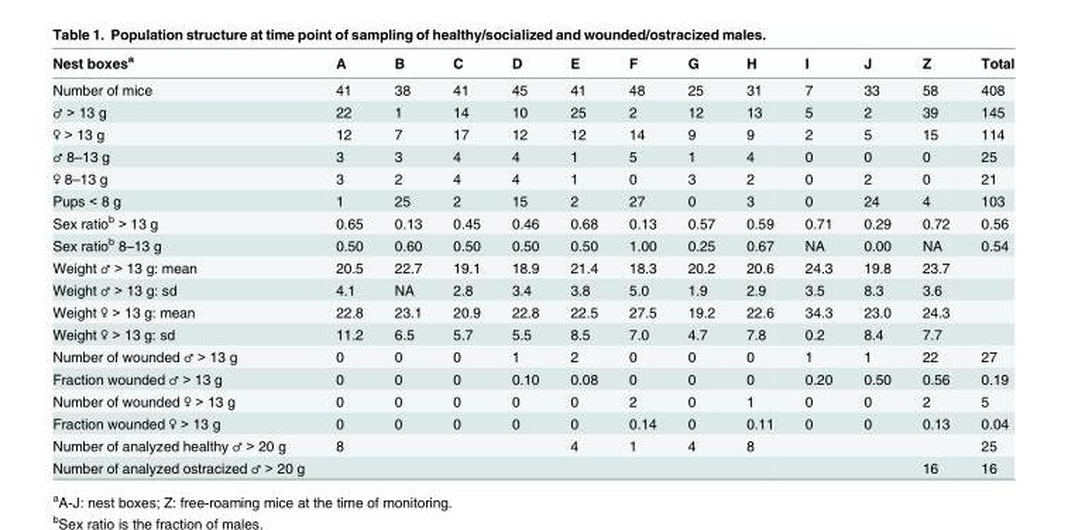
<table><thead><tr><td>Nest boxes<sup>a</sup></td><td>A</td><td>B</td><td>C</td><td>D</td><td>E</td><td>F</td><td>G</td><td>H</td><td>I</td><td>J</td><td>Z</td><td>Total</td></tr></thead><tbody><tr><td>Number of mice</td><td>41</td><td>38</td><td>41</td><td>45</td><td>41</td><td>48</td><td>25</td><td>31</td><td>7</td><td>33</td><td>58</td><td>408</td></tr><tr><td>♂ &gt; 13 g</td><td>22</td><td>1</td><td>14</td><td>10</td><td>25</td><td>2</td><td>12</td><td>13</td><td>5</td><td>2</td><td>39</td><td>145</td></tr><tr><td>♀ &gt; 13 g</td><td>12</td><td>7</td><td>17</td><td>12</td><td>12</td><td>14</td><td>9</td><td>9</td><td>2</td><td>5</td><td>15</td><td>114</td></tr><tr><td>♂ 8–13 g</td><td>3</td><td>3</td><td>4</td><td>4</td><td>1</td><td>5</td><td>1</td><td>4</td><td>0</td><td>0</td><td>0</td><td>25</td></tr><tr><td>♀ 8–13 g</td><td>3</td><td>2</td><td>4</td><td>4</td><td>1</td><td>0</td><td>3</td><td>2</td><td>0</td><td>2</td><td>0</td><td>21</td></tr><tr><td>Pups &lt; 8 g</td><td>1</td><td>25</td><td>2</td><td>15</td><td>2</td><td>27</td><td>0</td><td>3</td><td>0</td><td>24</td><td>4</td><td>103</td></tr><tr><td>Sex ratio<sup>b</sup> &gt; 13 g</td><td>0.65</td><td>0.13</td><td>0.45</td><td>0.46</td><td>0.68</td><td>0.13</td><td>0.57</td><td>0.59</td><td>0.71</td><td>0.29</td><td>0.72</td><td>0.56</td></tr><tr><td>Sex ratio<sup>b</sup> 8–13 g</td><td>0.50</td><td>0.60</td><td>0.50</td><td>0.50</td><td>0.50</td><td>1.00</td><td>0.25</td><td>0.67</td><td>NA</td><td>0.00</td><td>NA</td><td>0.54</td></tr><tr><td>Weight ♂ &gt; 13 g: mean</td><td>20.5</td><td>22.7</td><td>19.1</td><td>18.9</td><td>21.4</td><td>18.3</td><td>20.2</td><td>20.6</td><td>24.3</td><td>19.8</td><td>23.7</td><td></td></tr><tr><td>Weight ♂ &gt; 13 g: sd</td><td>4.1</td><td>NA</td><td>2.8</td><td>3.4</td><td>3.8</td><td>5.0</td><td>1.9</td><td>2.9</td><td>3.5</td><td>8.3</td><td>3.6</td><td></td></tr><tr><td>Weight ♀ &gt; 13 g: mean</td><td>22.8</td><td>23.1</td><td>20.9</td><td>22.8</td><td>22.5</td><td>27.5</td><td>19.2</td><td>22.6</td><td>34.3</td><td>23.0</td><td>24.3</td><td></td></tr><tr><td>Weight ♀ &gt; 13 g: sd</td><td>11.2</td><td>6.5</td><td>5.7</td><td>5.5</td><td>8.5</td><td>7.0</td><td>4.7</td><td>7.8</td><td>0.2</td><td>8.4</td><td>7.7</td><td></td></tr><tr><td>Number of wounded ♂ &gt; 13 g</td><td>0</td><td>0</td><td>0</td><td>1</td><td>2</td><td>0</td><td>0</td><td>0</td><td>1</td><td>1</td><td>22</td><td>27</td></tr><tr><td>Fraction wounded ♂ &gt; 13 g</td><td>0</td><td>0</td><td>0</td><td>0.10</td><td>0.08</td><td>0</td><td>0</td><td>0</td><td>0.20</td><td>0.50</td><td>0.56</td><td>0.19</td></tr><tr><td>Number of wounded ♀ &gt; 13 g</td><td>0</td><td>0</td><td>0</td><td>0</td><td>0</td><td>2</td><td>0</td><td>1</td><td>0</td><td>0</td><td>2</td><td>5</td></tr><tr><td>Fraction wounded ♀ &gt; 13 g</td><td>0</td><td>0</td><td>0</td><td>0</td><td>0</td><td>0.14</td><td>0</td><td>0.11</td><td>0</td><td>0</td><td>0.13</td><td>0.04</td></tr><tr><td>Number of analyzed healthy ♂ &gt; 20 g</td><td>8</td><td></td><td></td><td></td><td>4</td><td>1</td><td>4</td><td>8</td><td></td><td></td><td></td><td>25</td></tr><tr><td>Number of analyzed ostracized ♂ &gt; 20 g</td><td></td><td></td><td></td><td></td><td></td><td></td><td></td><td></td><td></td><td></td><td>16</td><td>16</td></tr></tbody></table>